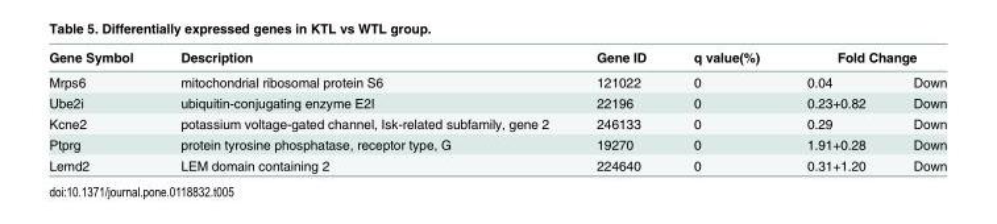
<table><thead><tr><td rowspan="2">Gene Symbol Mrps6</td><td rowspan="2">Description mitochondrial ribosomal protein S6</td><td rowspan="2">Gene ID 121022</td><td rowspan="2">q value(%) 0</td><td colspan="2">Fold Change</td></tr><tr><td>0.04</td><td>Down</td></tr></thead><tbody><tr><td>Ube2i</td><td>ubiquitin-conjugating enzyme E2I</td><td>22196</td><td>0</td><td>0.23+0.82</td><td>Down</td></tr><tr><td>Kcne2</td><td>potassium voltage-gated channel, Isk-related subfamily, gene 2</td><td>246133</td><td>0</td><td>0.29</td><td>Down</td></tr><tr><td>Ptprg</td><td>protein tyrosine phosphatase, receptor type, G</td><td>19270</td><td>0</td><td>1.91+0.28</td><td>Down</td></tr><tr><td>Lemd2</td><td>LEM domain containing 2</td><td>224640</td><td>0</td><td>0.31+1.20</td><td>Down</td></tr></tbody></table>